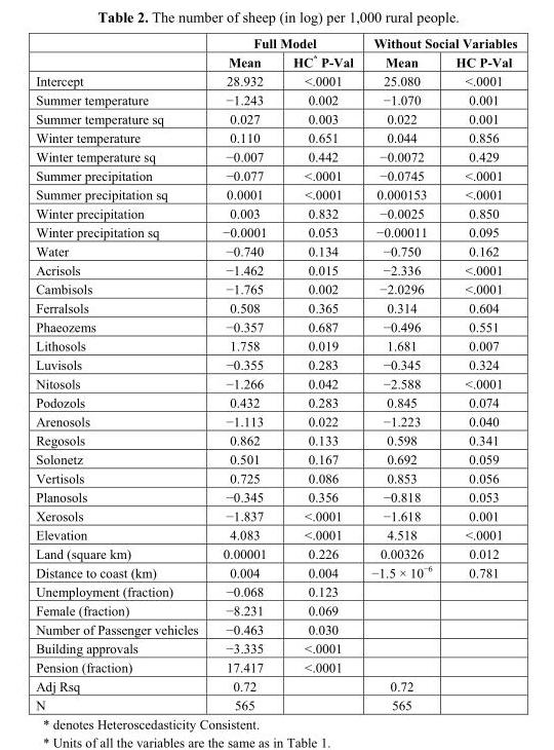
<table><thead><tr><td rowspan="2"></td><td colspan="2">Full Model</td><td colspan="2">Without Social Variables</td></tr><tr><td>Mean</td><td>HC* P-Val</td><td>Mean</td><td>HC P-Val</td></tr></thead><tbody><tr><td>Intercept</td><td>28.932</td><td>&lt;.0001</td><td>25.080</td><td>&lt;.0001</td></tr><tr><td>Summer temperature</td><td>−1.243</td><td>0.002</td><td>−1.070</td><td>0.001</td></tr><tr><td>Summer temperature sq</td><td>0.027</td><td>0.003</td><td>0.022</td><td>0.001</td></tr><tr><td>Winter temperature</td><td>0.110</td><td>0.651</td><td>0.044</td><td>0.856</td></tr><tr><td>Winter temperature sq</td><td>−0.007</td><td>0.442</td><td>−0.0072</td><td>0.429</td></tr><tr><td>Summer precipitation</td><td>−0.077</td><td>&lt;.0001</td><td>−0.0745</td><td>&lt;.0001</td></tr><tr><td>Summer precipitation sq</td><td>0.0001</td><td>&lt;.0001</td><td>0.000153</td><td>&lt;.0001</td></tr><tr><td>Winter precipitation</td><td>0.003</td><td>0.832</td><td>−0.0025</td><td>0.850</td></tr><tr><td>Winter precipitation sq</td><td>−0.0001</td><td>0.053</td><td>−0.00011</td><td>0.095</td></tr><tr><td>Water</td><td>−0.740</td><td>0.134</td><td>−0.750</td><td>0.162</td></tr><tr><td>Acrisols</td><td>−1.462</td><td>0.015</td><td>−2.336</td><td>&lt;.0001</td></tr><tr><td>Cambisols</td><td>−1.765</td><td>0.002</td><td>−2.0296</td><td>&lt;.0001</td></tr><tr><td>Ferralsols</td><td>0.508</td><td>0.365</td><td>0.314</td><td>0.604</td></tr><tr><td>Phaeozems</td><td>−0.357</td><td>0.687</td><td>−0.496</td><td>0.551</td></tr><tr><td>Lithosols</td><td>1.758</td><td>0.019</td><td>1.681</td><td>0.007</td></tr><tr><td>Luvisols</td><td>−0.355</td><td>0.283</td><td>−0.345</td><td>0.324</td></tr><tr><td>Nitosols</td><td>−1.266</td><td>0.042</td><td>−2.588</td><td>&lt;.0001</td></tr><tr><td>Podozols</td><td>0.432</td><td>0.283</td><td>0.845</td><td>0.074</td></tr><tr><td>Arenosols</td><td>−1.113</td><td>0.022</td><td>−1.223</td><td>0.040</td></tr><tr><td>Regosols</td><td>0.862</td><td>0.133</td><td>0.598</td><td>0.341</td></tr><tr><td>Solonetz</td><td>0.501</td><td>0.167</td><td>0.692</td><td>0.059</td></tr><tr><td>Vertisols</td><td>0.725</td><td>0.086</td><td>0.853</td><td>0.056</td></tr><tr><td>Planosols</td><td>−0.345</td><td>0.356</td><td>−0.818</td><td>0.053</td></tr><tr><td>Xerosols</td><td>−1.837</td><td>&lt;.0001</td><td>−1.618</td><td>0.001</td></tr><tr><td>Elevation</td><td>4.083</td><td>&lt;.0001</td><td>4.518</td><td>&lt;.0001</td></tr><tr><td>Land (square km)</td><td>0.00001</td><td>0.226</td><td>0.00326</td><td>0.012</td></tr><tr><td>Distance to coast (km)</td><td>0.004</td><td>0.004</td><td>−1.5 × 10<sup>−6</sup></td><td>0.781</td></tr><tr><td>Unemployment (fraction)</td><td>−0.068</td><td>0.123</td><td></td><td></td></tr><tr><td>Female (fraction)</td><td>−8.231</td><td>0.069</td><td></td><td></td></tr><tr><td>Number of Passenger vehicles</td><td>−0.463</td><td>0.030</td><td></td><td></td></tr><tr><td>Building approvals</td><td>−3.335</td><td>&lt;.0001</td><td></td><td></td></tr><tr><td>Pension (fraction)</td><td>17.417</td><td>&lt;.0001</td><td></td><td></td></tr><tr><td>Adj Rsq</td><td>0.72</td><td></td><td>0.72</td><td></td></tr><tr><td>N</td><td>565</td><td></td><td>565</td><td></td></tr></tbody></table>